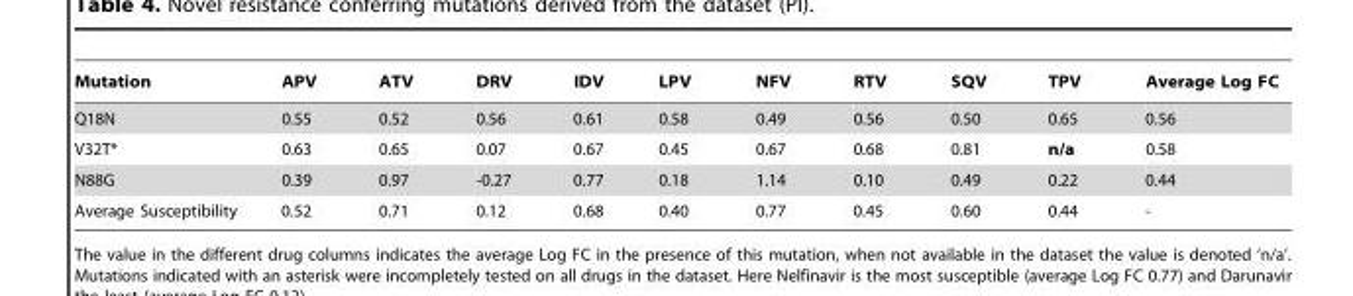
<table><thead><tr><td>Mutation</td><td>APV</td><td>ATV</td><td>DRV</td><td>IDV</td><td>LPV</td><td>NFV</td><td>RTV</td><td>SQV</td><td>TPV</td><td>Average Log FC</td></tr></thead><tbody><tr><td>Q18N</td><td>0.55</td><td>0.52</td><td>0.56</td><td>0.61</td><td>0.58</td><td>0.49</td><td>0.56</td><td>0.50</td><td>0.65</td><td>0.56</td></tr><tr><td>V32T*</td><td>0.63</td><td>0.65</td><td>0.07</td><td>0.67</td><td>0.45</td><td>0.67</td><td>0.68</td><td>0.81</td><td>n/a</td><td>0.58</td></tr><tr><td>N88G</td><td>0.39</td><td>0.97</td><td>-0.27</td><td>0.77</td><td>0.18</td><td>1.14</td><td>0.10</td><td>0.49</td><td>0.22</td><td>0.44</td></tr><tr><td>Average Susceptibility</td><td>0.52</td><td>0.71</td><td>0.12</td><td>0.68</td><td>0.40</td><td>0.77</td><td>0.45</td><td>0.60</td><td>0.44</td><td>-</td></tr></tbody></table>